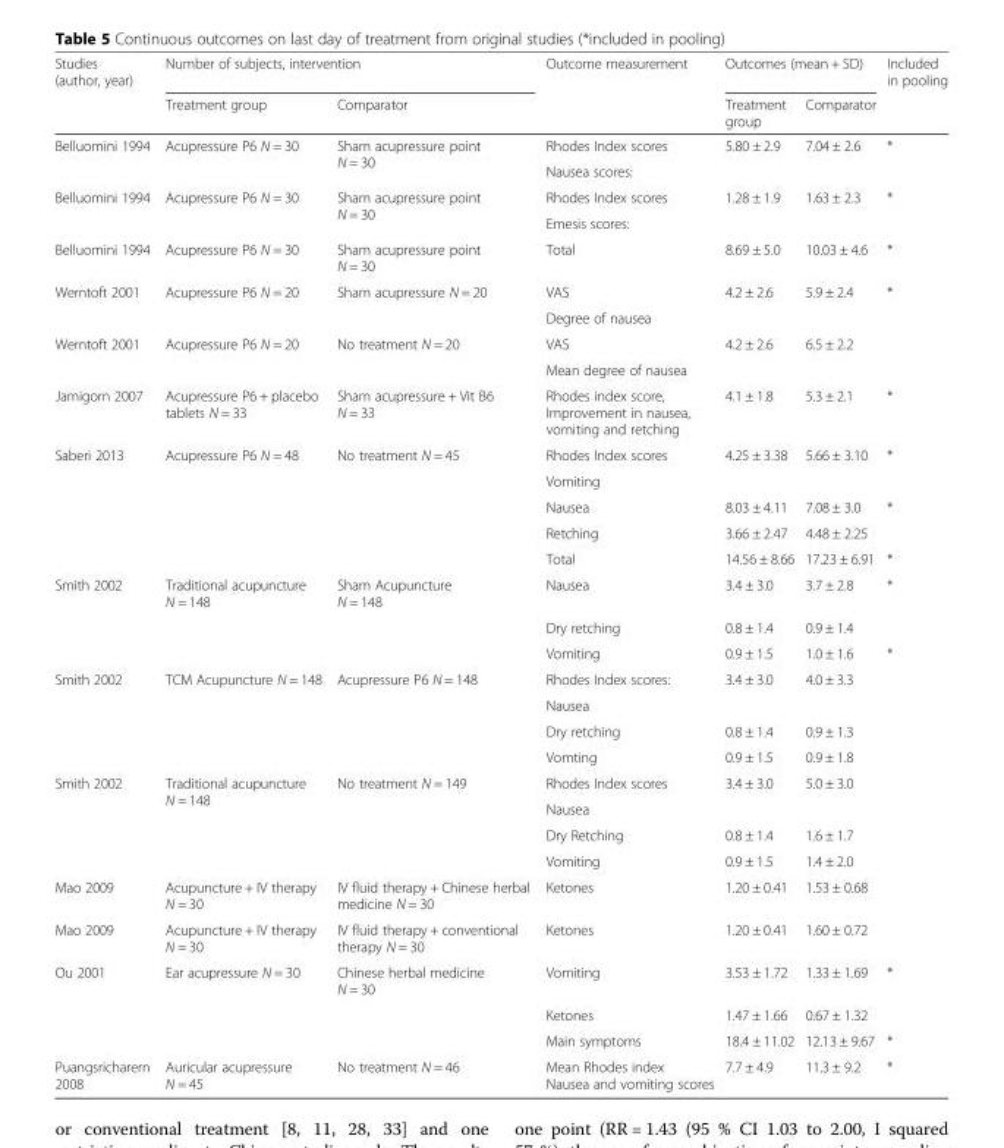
<table><thead><tr><td rowspan="2">Studies (author, year)</td><td colspan="2">Number of subjects, intervention</td><td rowspan="2">Outcome measurement</td><td colspan="2">Outcomes (mean + SD)</td><td rowspan="2">Included in pooling</td></tr><tr><td>Treatment group</td><td>Comparator</td><td>Treatment group</td><td>Comparator</td></tr></thead><tbody><tr><td rowspan="2">Belluomini 1994</td><td rowspan="2">Acupressure P6 N = 30</td><td rowspan="2">Sham acupressure point N = 30</td><td>Rhodes Index scores</td><td rowspan="2">5.80 ± 2.9</td><td rowspan="2">7.04 ± 2.6</td><td rowspan="2">*</td></tr><tr><td>Nausea scores:</td></tr><tr><td rowspan="2">Belluomini 1994</td><td rowspan="2">Acupressure P6 N = 30</td><td rowspan="2">Sham acupressure point N = 30</td><td>Rhodes Index scores</td><td rowspan="2">1.28 ± 1.9</td><td rowspan="2">1.63 ± 2.3</td><td rowspan="2">*</td></tr><tr><td>Emesis scores:</td></tr><tr><td>Belluomini 1994</td><td>Acupressure P6 N = 30</td><td>Sham acupressure point N = 30</td><td>Total</td><td>8.69 ± 5.0</td><td>10.03 ± 4.6</td><td>*</td></tr><tr><td rowspan="2">Werntoft 2001</td><td rowspan="2">Acupressure P6 N = 20</td><td rowspan="2">Sham acupressure N = 20</td><td>VAS</td><td rowspan="2">4.2 ± 2.6</td><td rowspan="2">5.9 ± 2.4</td><td rowspan="2">*</td></tr><tr><td>Degree of nausea</td></tr><tr><td rowspan="2">Werntoft 2001</td><td rowspan="2">Acupressure P6 N = 20</td><td rowspan="2">No treatment N = 20</td><td>VAS</td><td rowspan="2">4.2 ± 2.6</td><td rowspan="2">6.5 ± 2.2</td><td rowspan="2"></td></tr><tr><td>Mean degree of nausea</td></tr><tr><td>Jamigorn 2007</td><td>Acupressure P6 + placebo tablets N = 33</td><td>Sham acupressure + Vit B6 N = 33</td><td>Rhodes index score, Improvement in nausea, vomiting and retching</td><td>4.1 ± 1.8</td><td>5.3 ± 2.1</td><td>*</td></tr><tr><td rowspan="2">Saberi 2013</td><td rowspan="2">Acupressure P6 N = 48</td><td rowspan="2">No treatment N = 45</td><td>Rhodes Index scores</td><td rowspan="2">4.25 ± 3.38</td><td rowspan="2">5.66 ± 3.10</td><td rowspan="2">*</td></tr><tr><td>Vomiting</td></tr><tr><td rowspan="3" colspan="3"></td><td>Nausea</td><td>8.03 ± 4.11</td><td>7.08 ± 3.0</td><td>*</td></tr><tr><td>Retching</td><td>3.66 ± 2.47</td><td>4.48 ± 2.25</td><td></td></tr><tr><td>Total</td><td>14.56 ± 8.66</td><td>17.23 ± 6.91</td><td>*</td></tr><tr><td>Smith 2002</td><td>Traditional acupuncture N = 148</td><td>Sham Acupuncture N = 148</td><td>Nausea</td><td>3.4 ± 3.0</td><td>3.7 ± 2.8</td><td>*</td></tr><tr><td rowspan="2" colspan="3"></td><td>Dry retching</td><td>0.8 ± 1.4</td><td>0.9 ± 1.4</td><td></td></tr><tr><td>Vomiting</td><td>0.9 ± 1.5</td><td>1.0 ± 1.6</td><td>*</td></tr><tr><td rowspan="2">Smith 2002</td><td rowspan="2">TCM Acupuncture N = 148</td><td rowspan="2">Acupressure P6 N = 148</td><td>Rhodes Index scores:</td><td rowspan="2">3.4 ± 3.0</td><td rowspan="2">4.0 ± 3.3</td><td rowspan="2"></td></tr><tr><td>Nausea</td></tr><tr><td rowspan="2" colspan="3"></td><td>Dry retching</td><td>0.8 ± 1.4</td><td>0.9 ± 1.3</td><td></td></tr><tr><td>Vomting</td><td>0.9 ± 1.5</td><td>0.9 ± 1.8</td><td></td></tr><tr><td rowspan="2">Smith 2002</td><td rowspan="2">Traditional acupuncture N = 148</td><td rowspan="2">No treatment N = 149</td><td>Rhodes Index scores</td><td rowspan="2">3.4 ± 3.0</td><td rowspan="2">5.0 ± 3.0</td><td rowspan="2"></td></tr><tr><td>Nausea</td></tr><tr><td rowspan="2" colspan="3"></td><td>Dry Retching</td><td>0.8 ± 1.4</td><td>1.6 ± 1.7</td><td></td></tr><tr><td>Vomiting</td><td>0.9 ± 1.5</td><td>1.4 ± 2.0</td><td></td></tr><tr><td>Mao 2009</td><td>Acupuncture + IV therapy N = 30</td><td>IV fluid therapy + Chinese herbal medicine N = 30</td><td>Ketones</td><td>1.20 ± 0.41</td><td>1.53 ± 0.68</td><td></td></tr><tr><td>Mao 2009</td><td>Acupuncture + IV therapy N = 30</td><td>IV fluid therapy + conventional therapy N = 30</td><td>Ketones</td><td>1.20 ± 0.41</td><td>1.60 ± 0.72</td><td></td></tr><tr><td>Ou 2001</td><td>Ear acupressure N = 30</td><td>Chinese herbal medicine N = 30</td><td>Vomiting</td><td>3.53 ± 1.72</td><td>1.33 ± 1.69</td><td>*</td></tr><tr><td rowspan="2" colspan="3"></td><td>Ketones</td><td>1.47 ± 1.66</td><td>0.67 ± 1.32</td><td></td></tr><tr><td>Main symptoms</td><td>18.4 ± 11.02</td><td>12.13 ± 9.67</td><td>*</td></tr><tr><td>Puangsricharern 2008</td><td>Auricular acupressure N = 45</td><td>No treatment N = 46</td><td>Mean Rhodes index Nausea and vomiting scores</td><td>7.7 ± 4.9</td><td>11.3 ± 9.2</td><td>*</td></tr></tbody></table>